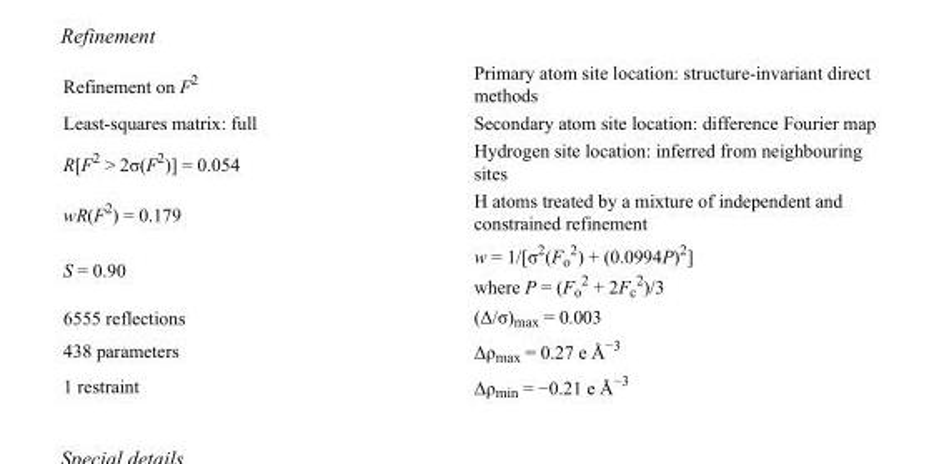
<table><tbody><tr><td>Refinement on F<sup>2</sup></td><td>Primary atom site location: structure-invariant direct methods</td></tr><tr><td>Least-squares matrix: full</td><td>Secondary atom site location: difference Fourier map</td></tr><tr><td>R[F<sup>2</sup> &gt; 2σ(F<sup>2</sup>)] = 0.054</td><td>Hydrogen site location: inferred from neighbouring sites</td></tr><tr><td>wR(F<sup>2</sup>) = 0.179</td><td>H atoms treated by a mixture of independent and constrained refinement</td></tr><tr><td>S = 0.90</td><td>w = 1/[σ<sup>2</sup>(F<sub>o</sub> <sup>2</sup>) + (0.0994P)<sup>2</sup>] where P = (F<sub>o</sub> <sup>2</sup> + 2F<sub>c</sub> <sup>2</sup>)/3</td></tr><tr><td>6555 reflections</td><td>(Δ/σ)<sub>max</sub> = 0.003</td></tr><tr><td>438 parameters</td><td>Δρ<sub>max</sub> = 0.27 e Å<sup>−3</sup></td></tr><tr><td>1 restraint</td><td>Δρ<sub>min</sub> = −0.21 e Å<sup>−3</sup></td></tr></tbody></table>